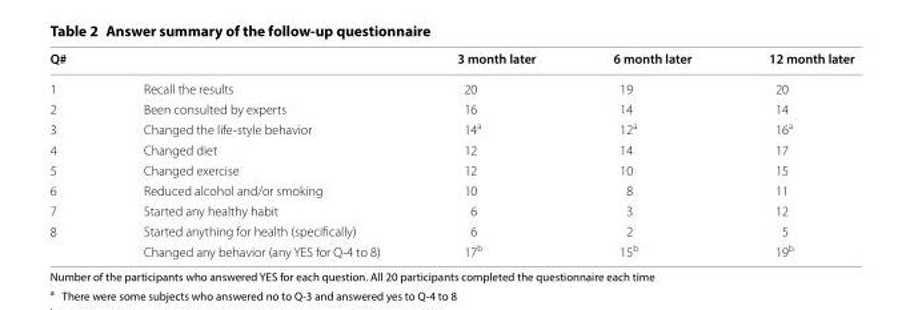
<table><thead><tr><td>Q#</td><td></td><td>3 month later</td><td>6 month later</td><td>12 month later</td></tr></thead><tbody><tr><td>1</td><td>Recall the results</td><td>20</td><td>19</td><td>20</td></tr><tr><td>2</td><td>Been consulted by experts</td><td>16</td><td>14</td><td>14</td></tr><tr><td>3</td><td>Changed the life-style behavior</td><td>14<sup>a</sup></td><td>12<sup>a</sup></td><td>16<sup>a</sup></td></tr><tr><td>4</td><td>Changed diet</td><td>12</td><td>14</td><td>17</td></tr><tr><td>5</td><td>Changed exercise</td><td>12</td><td>10</td><td>15</td></tr><tr><td>6</td><td>Reduced alcohol and/or smoking</td><td>10</td><td>8</td><td>11</td></tr><tr><td>7</td><td>Started any healthy habit</td><td>6</td><td>3</td><td>12</td></tr><tr><td rowspan="2">8</td><td>Started anything for health (specifically)</td><td>6</td><td>2</td><td>5</td></tr><tr><td>Changed any behavior (any YES for Q-4 to 8)</td><td>17<sup>b</sup></td><td>15<sup>b</sup></td><td>19<sup>b</sup></td></tr></tbody></table>